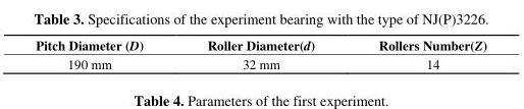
<table><thead><tr><td>Pitch Diameter (D)</td><td>Roller Diameter(d)</td><td>Rollers Number(Z)</td></tr></thead><tbody><tr><td>190 mm</td><td>32 mm</td><td>14</td></tr></tbody></table>